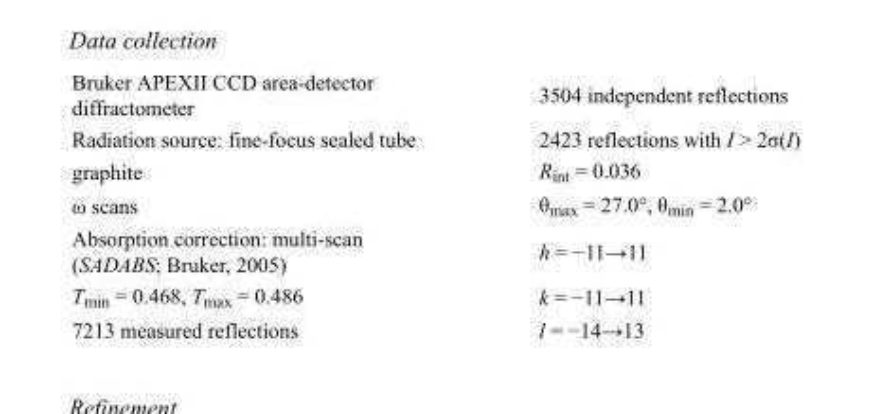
<table><tbody><tr><td>Bruker APEXII CCD area-detector diffractometer</td><td>3504 independent reflections</td></tr><tr><td>Radiation source: fine-focus sealed tube</td><td>2423 reflections with I &gt; 2σ(I)</td></tr><tr><td>graphite</td><td>R<sub>int</sub> = 0.036</td></tr><tr><td>ω scans</td><td>θ<sub>max</sub> = 27.0°, θ<sub>min</sub> = 2.0°</td></tr><tr><td>Absorption correction: multi-scan (SADABS; Bruker, 2005)</td><td>h = −11→11</td></tr><tr><td>T<sub>min</sub> = 0.468, T<sub>max</sub> = 0.486</td><td>k = −11→11</td></tr><tr><td>7213 measured reflections</td><td>l = −14→13</td></tr></tbody></table>